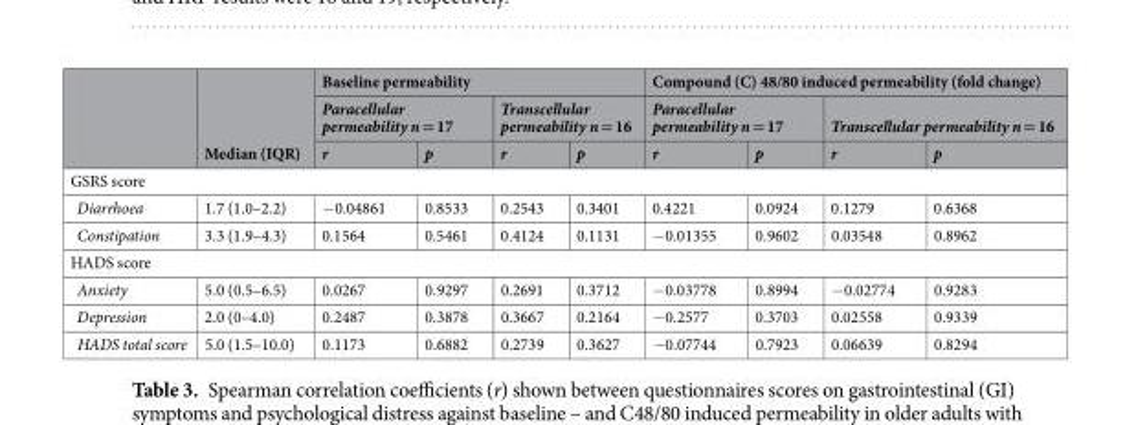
<table><thead><tr><td rowspan="3"></td><td rowspan="3">Median (IQR)</td><td colspan="4">Baseline permeability</td><td colspan="4">Compound (C) 48/80 induced permeability (fold change)</td></tr><tr><td colspan="2">Paracellular permeability n = 17</td><td colspan="2">Transcellular permeability n = 16</td><td colspan="2">Paracellular permeability n = 17</td><td colspan="2">Transcellular permeability n = 16</td></tr><tr><td>r</td><td>p</td><td>r</td><td>p</td><td>r</td><td>p</td><td>r</td><td>p</td></tr></thead><tbody><tr><td colspan="10">GSRS score</td></tr><tr><td>Diarrhoea</td><td>1.7 (1.0–2.2)</td><td>−0.04861</td><td>0.8533</td><td>0.2543</td><td>0.3401</td><td>0.4221</td><td>0.0924</td><td>0.1279</td><td>0.6368</td></tr><tr><td>Constipation</td><td>3.3 (1.9–4.3)</td><td>0.1564</td><td>0.5461</td><td>0.4124</td><td>0.1131</td><td>−0.01355</td><td>0.9602</td><td>0.03548</td><td>0.8962</td></tr><tr><td colspan="10">HADS score</td></tr><tr><td>Anxiety</td><td>5.0 (0.5–6.5)</td><td>0.0267</td><td>0.9297</td><td>0.2691</td><td>0.3712</td><td>−0.03778</td><td>0.8994</td><td>−0.02774</td><td>0.9283</td></tr><tr><td>Depression</td><td>2.0 (0–4.0)</td><td>0.2487</td><td>0.3878</td><td>0.3667</td><td>0.2164</td><td>−0.2577</td><td>0.3703</td><td>0.02558</td><td>0.9339</td></tr><tr><td>HADS total score</td><td>5.0 (1.5–10.0)</td><td>0.1173</td><td>0.6882</td><td>0.2739</td><td>0.3627</td><td>−0.07744</td><td>0.7923</td><td>0.06639</td><td>0.8294</td></tr></tbody></table>